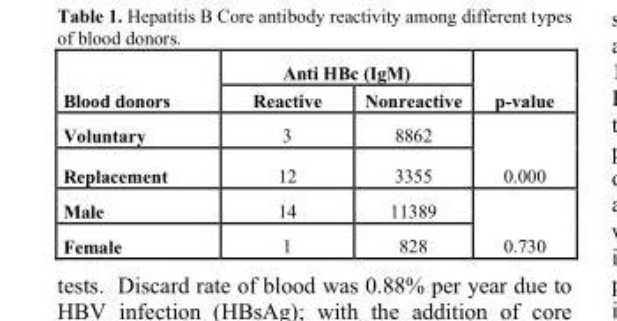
<table><thead><tr><td rowspan="2">Blood donors</td><td colspan="2">Anti HBc (IgM)</td><td rowspan="2">p-value</td></tr><tr><td>Reactive</td><td>Nonreactive</td></tr></thead><tbody><tr><td>Voluntary</td><td>3</td><td>8862</td><td rowspan="2">0.000</td></tr><tr><td>Replacement</td><td>12</td><td>3355</td></tr><tr><td>Male</td><td>14</td><td>11389</td><td rowspan="2">0.730</td></tr><tr><td>Female</td><td>1</td><td>828</td></tr></tbody></table>